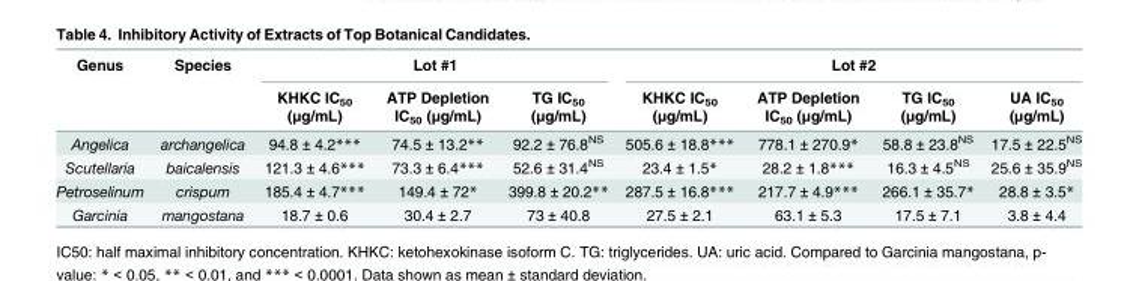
<table><thead><tr><td rowspan="2">Genus</td><td rowspan="2">Species</td><td colspan="3">Lot #1</td><td colspan="4">Lot #2</td></tr><tr><td>KHKC IC<sub>50</sub> (μg/mL)</td><td>ATP Depletion IC<sub>50</sub> (μg/mL)</td><td>TG IC<sub>50</sub> (μg/mL)</td><td>KHKC IC<sub>50</sub> (μg/mL)</td><td>ATP Depletion IC<sub>50</sub> (μg/mL)</td><td>TG IC<sub>50</sub> (μg/mL)</td><td>UA IC<sub>50</sub> (μg/mL)</td></tr></thead><tbody><tr><td>Angelica</td><td>archangelica</td><td>94.8 ± 4.2***</td><td>74.5 ± 13.2**</td><td>92.2 ± 76.8<sup>NS</sup></td><td>505.6 ± 18.8***</td><td>778.1 ± 270.9*</td><td>58.8 ± 23.8<sup>NS</sup></td><td>17.5 ± 22.5<sup>NS</sup></td></tr><tr><td>Scutellaria</td><td>baicalensis</td><td>121.3 ± 4.6***</td><td>73.3 ± 6.4***</td><td>52.6 ± 31.4<sup>NS</sup></td><td>23.4 ± 1.5*</td><td>28.2 ± 1.8***</td><td>16.3 ± 4.5<sup>NS</sup></td><td>25.6 ± 35.9<sup>NS</sup></td></tr><tr><td>Petroselinum</td><td>crispum</td><td>185.4 ± 4.7***</td><td>149.4 ± 72*</td><td>399.8 ± 20.2**</td><td>287.5 ± 16.8***</td><td>217.7 ± 4.9***</td><td>266.1 ± 35.7*</td><td>28.8 ± 3.5*</td></tr><tr><td>Garcinia</td><td>mangostana</td><td>18.7 ± 0.6</td><td>30.4 ± 2.7</td><td>73 ± 40.8</td><td>27.5 ± 2.1</td><td>63.1 ± 5.3</td><td>17.5 ± 7.1</td><td>3.8 ± 4.4</td></tr></tbody></table>